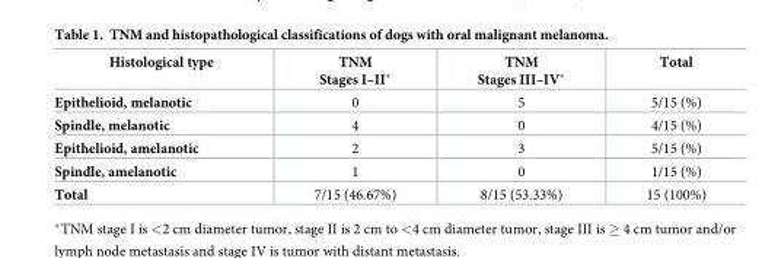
<table><thead><tr><td>Histological type</td><td>TNM Stages I–II*</td><td>TNM Stages III–IV*</td><td>Total</td></tr></thead><tbody><tr><td>Epithelioid, melanotic</td><td>0</td><td>5</td><td>5/15 (%)</td></tr><tr><td>Spindle, melanotic</td><td>4</td><td>0</td><td>4/15 (%)</td></tr><tr><td>Epithelioid, amelanotic</td><td>2</td><td>3</td><td>5/15 (%)</td></tr><tr><td>Spindle, amelanotic</td><td>1</td><td>0</td><td>1/15 (%)</td></tr><tr><td>Total</td><td>7/15 (46.67%)</td><td>8/15 (53.33%)</td><td>15 (100%)</td></tr></tbody></table>